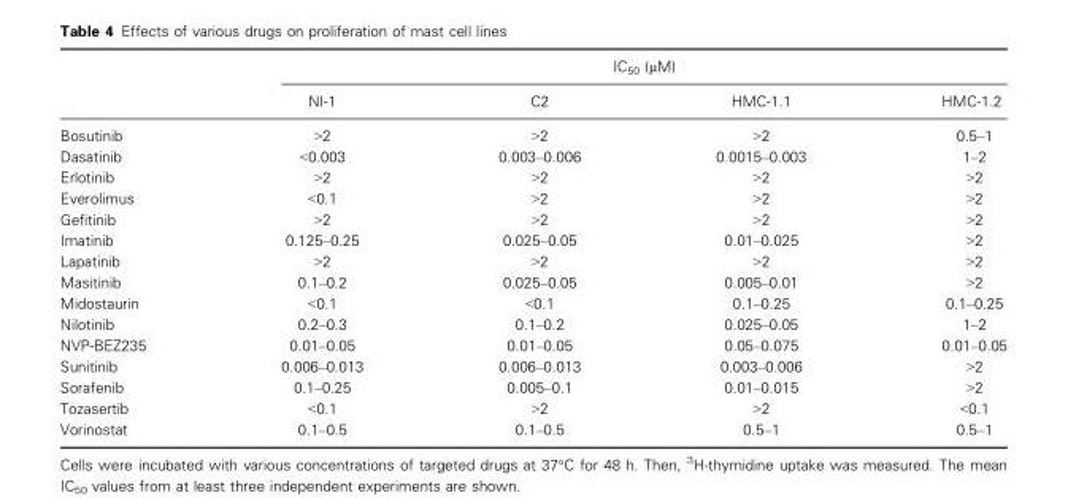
<table><thead><tr><td rowspan="2"></td><td colspan="4">IC<sub>50</sub> (μM)</td></tr><tr><td>NI-1</td><td>C2</td><td>HMC-1.1</td><td>HMC-1.2</td></tr></thead><tbody><tr><td>Bosutinib</td><td>&gt;2</td><td>&gt;2</td><td>&gt;2</td><td>0.5–1</td></tr><tr><td>Dasatinib</td><td>&lt;0.003</td><td>0.003–0.006</td><td>0.0015–0.003</td><td>1–2</td></tr><tr><td>Erlotinib</td><td>&gt;2</td><td>&gt;2</td><td>&gt;2</td><td>&gt;2</td></tr><tr><td>Everolimus</td><td>&lt;0.1</td><td>&gt;2</td><td>&gt;2</td><td>&gt;2</td></tr><tr><td>Gefitinib</td><td>&gt;2</td><td>&gt;2</td><td>&gt;2</td><td>&gt;2</td></tr><tr><td>Imatinib</td><td>0.125–0.25</td><td>0.025–0.05</td><td>0.01–0.025</td><td>&gt;2</td></tr><tr><td>Lapatinib</td><td>&gt;2</td><td>&gt;2</td><td>&gt;2</td><td>&gt;2</td></tr><tr><td>Masitinib</td><td>0.1–0.2</td><td>0.025–0.05</td><td>0.005–0.01</td><td>&gt;2</td></tr><tr><td>Midostaurin</td><td>&lt;0.1</td><td>&lt;0.1</td><td>0.1–0.25</td><td>0.1–0.25</td></tr><tr><td>Nilotinib</td><td>0.2–0.3</td><td>0.1–0.2</td><td>0.025–0.05</td><td>1–2</td></tr><tr><td>NVP-BEZ235</td><td>0.01–0.05</td><td>0.01–0.05</td><td>0.05–0.075</td><td>0.01–0.05</td></tr><tr><td>Sunitinib</td><td>0.006–0.013</td><td>0.006–0.013</td><td>0.003–0.006</td><td>&gt;2</td></tr><tr><td>Sorafenib</td><td>0.1–0.25</td><td>0.005–0.1</td><td>0.01–0.015</td><td>&gt;2</td></tr><tr><td>Tozasertib</td><td>&lt;0.1</td><td>&gt;2</td><td>&gt;2</td><td>&lt;0.1</td></tr><tr><td>Vorinostat</td><td>0.1–0.5</td><td>0.1–0.5</td><td>0.5–1</td><td>0.5–1</td></tr></tbody></table>